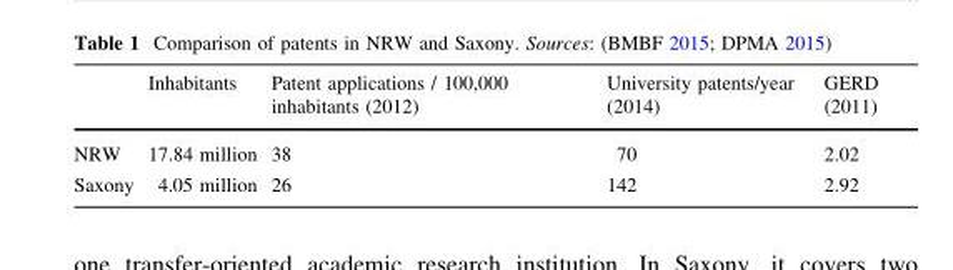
<table><thead><tr><td></td><td>Inhabitants</td><td>Patent applications / 100,000 inhabitants (2012)</td><td>University patents/year (2014)</td><td>GERD (2011)</td></tr></thead><tbody><tr><td>NRW</td><td>17.84 million</td><td>38</td><td>70</td><td>2.02</td></tr><tr><td>Saxony</td><td>4.05 million</td><td>26</td><td>142</td><td>2.92</td></tr></tbody></table>